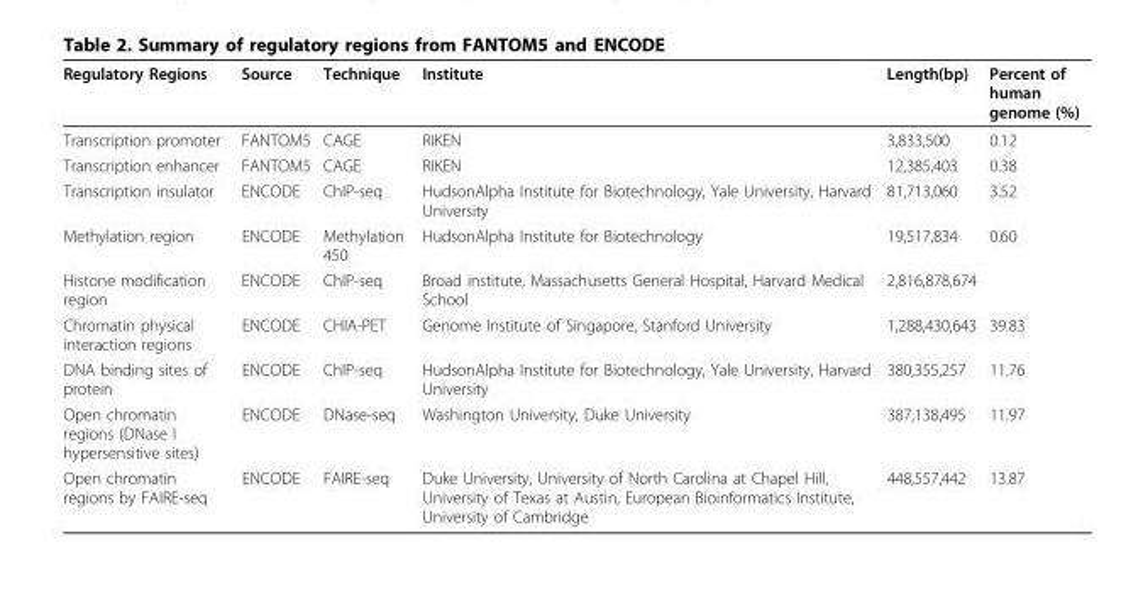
<table><thead><tr><td>Regulatory Regions</td><td>Source</td><td>Technique</td><td>Institute</td><td>Length(bp)</td><td>Percent of human genome (%)</td></tr></thead><tbody><tr><td>Transcription promoter</td><td>FANTOM5</td><td>CAGE</td><td>RIKEN</td><td>3,833,500</td><td>0.12</td></tr><tr><td>Transcription enhancer</td><td>FANTOM5</td><td>CAGE</td><td>RIKEN</td><td>12,385,403</td><td>0.38</td></tr><tr><td>Transcription insulator</td><td>ENCODE</td><td>ChIP-seq</td><td>HudsonAlpha Institute for Biotechnology, Yale University, Harvard University</td><td>81,713,060</td><td>3.52</td></tr><tr><td>Methylation region</td><td>ENCODE</td><td>Methylation 450</td><td>HudsonAlpha Institute for Biotechnology</td><td>19,517,834</td><td>0.60</td></tr><tr><td>Histone modification region</td><td>ENCODE</td><td>ChIP-seq</td><td>Broad institute, Massachusetts General Hospital, Harvard Medical School</td><td>2,816,878,674</td><td></td></tr><tr><td>Chromatin physical interaction regions</td><td>ENCODE</td><td>CHIA-PET</td><td>Genome Institute of Singapore, Stanford University</td><td>1,288,430,643</td><td>39.83</td></tr><tr><td>DNA binding sites of protein</td><td>ENCODE</td><td>ChIP-seq</td><td>HudsonAlpha Institute for Biotechnology, Yale University, Harvard University</td><td>380,355,257</td><td>11.76</td></tr><tr><td>Open chromatin regions (DNase I hypersensitive sites)</td><td>ENCODE</td><td>DNase-seq</td><td>Washington University, Duke University</td><td>387,138,495</td><td>11.97</td></tr><tr><td>Open chromatin regions by FAIRE-seq</td><td>ENCODE</td><td>FAIRE-seq</td><td>Duke University, University of North Carolina at Chapel Hill, University of Texas at Austin, European Bioinformatics Institute, University of Cambridge</td><td>448,557,442</td><td>13.87</td></tr></tbody></table>